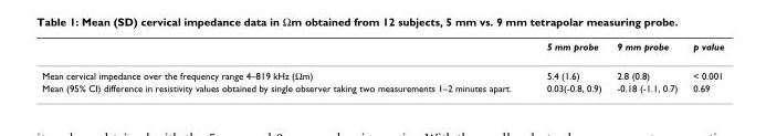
<table><thead><tr><td></td><td>5 mm probe</td><td>9 mm probe</td><td>p value</td></tr></thead><tbody><tr><td>Mean cervical impedance over the frequency range 4–819 kHz (Ωm)</td><td>5.4 (1.6)</td><td>2.8 (0.8)</td><td>&lt; 0.001</td></tr><tr><td>Mean (95% CI) difference in resistivity values obtained by single observer taking two measurements 1–2 minutes apart.</td><td>0.03(-0.8, 0.9)</td><td>-0.18 (-1.1, 0.7)</td><td>0.69</td></tr></tbody></table>